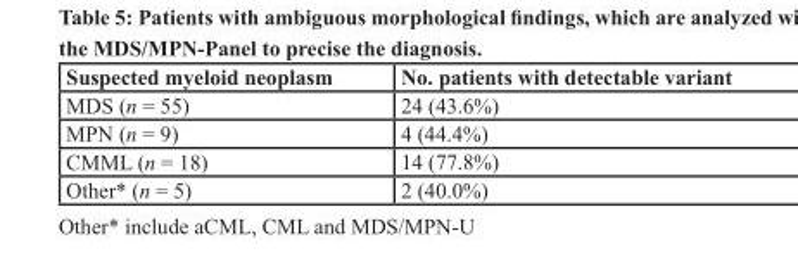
<table><thead><tr><td>Suspected myeloid neoplasm</td><td>No. patients with detectable variant</td></tr></thead><tbody><tr><td>MDS (n = 55)</td><td>24 (43.6%)</td></tr><tr><td>MPN (n = 9)</td><td>4 (44.4%)</td></tr><tr><td>CMML (n = 18)</td><td>14 (77.8%)</td></tr><tr><td>Other* (n = 5)</td><td>2 (40.0%)</td></tr></tbody></table>